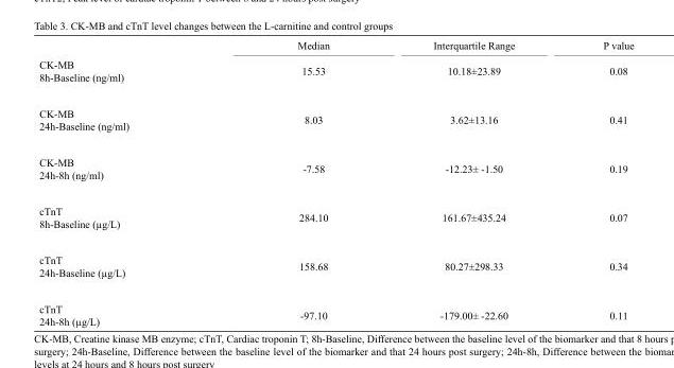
<table><thead><tr><td></td><td>Median</td><td>Interquartile Range</td><td>P value</td></tr></thead><tbody><tr><td>CK-MB 8h-Baseline (ng/ml)</td><td>15.53</td><td>10.18±23.89</td><td>0.08</td></tr><tr><td>CK-MB 24h-Baseline (ng/ml)</td><td>8.03</td><td>3.62±13.16</td><td>0.41</td></tr><tr><td>CK-MB 24h-8h (ng/ml)</td><td>-7.58</td><td>-12.23± -1.50</td><td>0.19</td></tr><tr><td>cTnT 8h-Baseline (µg/L)</td><td>284.10</td><td>161.67±435.24</td><td>0.07</td></tr><tr><td>cTnT 24h-Baseline (µg/L)</td><td>158.68</td><td>80.27±298.33</td><td>0.34</td></tr><tr><td>cTnT 24h-8h (µg/L)</td><td>-97.10</td><td>-179.00± -22.60</td><td>0.11</td></tr></tbody></table>